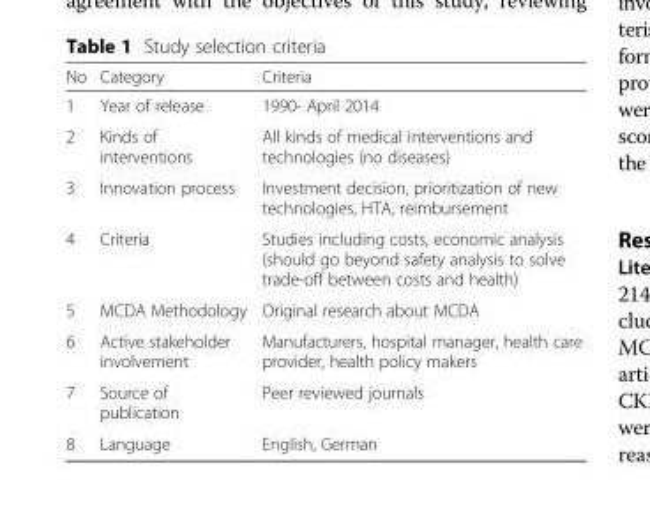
<table><thead><tr><td>No</td><td>Category</td><td>Criteria</td></tr></thead><tbody><tr><td>1</td><td>Year of release</td><td>1990- April 2014</td></tr><tr><td>2</td><td>Kinds of interventions</td><td>All kinds of medical interventions and technologies (no diseases)</td></tr><tr><td>3</td><td>Innovation process</td><td>Investment decision, prioritization of new technologies, HTA, reimbursement</td></tr><tr><td>4</td><td>Criteria</td><td>Studies including costs, economic analysis (should go beyond safety analysis to solve trade-off between costs and health)</td></tr><tr><td>5</td><td>MCDA Methodology</td><td>Original research about MCDA</td></tr><tr><td>6</td><td>Active stakeholder involvement</td><td>Manufacturers, hospital manager, health care provider, health policy makers</td></tr><tr><td>7</td><td>Source of publication</td><td>Peer reviewed journals</td></tr><tr><td>8</td><td>Language</td><td>English, German</td></tr></tbody></table>